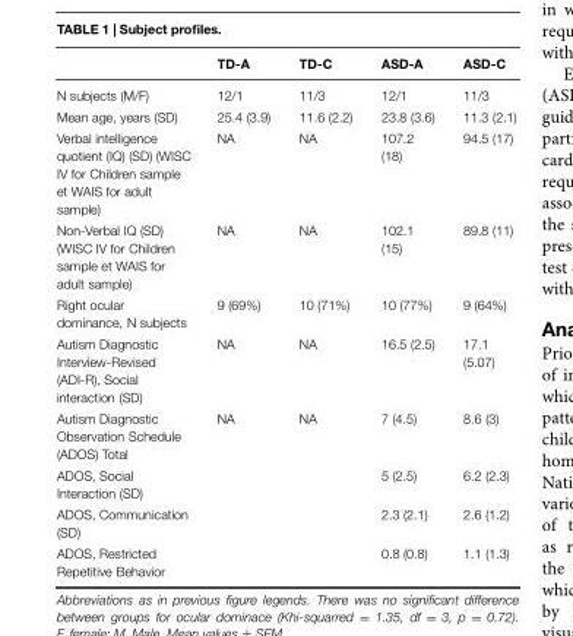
<table><thead><tr><td></td><td>TD-A</td><td>TD-C</td><td>ASD-A</td><td>ASD-C</td></tr></thead><tbody><tr><td>N subjects (M/F)</td><td>12/1</td><td>11/3</td><td>12/1</td><td>11/3</td></tr><tr><td>Mean age, years (SD)</td><td>25.4 (3.9)</td><td>11.6 (2.2)</td><td>23.8 (3.6)</td><td>11.3 (2.1)</td></tr><tr><td>Verbal intelligence quotient (IQ) (SD) (WISC IV for Children sample et WAIS for adult sample)</td><td>NA</td><td>NA</td><td>107.2 (18)</td><td>94.5 (17)</td></tr><tr><td>Non-Verbal IQ (SD) (WISC IV for Children sample et WAIS for adult sample)</td><td>NA</td><td>NA</td><td>102.1 (15)</td><td>89.8 (11)</td></tr><tr><td>Right ocular dominance, N subjects</td><td>9 (69%)</td><td>10 (71%)</td><td>10 (77%)</td><td>9 (64%)</td></tr><tr><td>Autism Diagnostic Interview-Revised (ADI-R), Social interaction (SD)</td><td>NA</td><td>NA</td><td>16.5 (2.5)</td><td>17.1 (5.07)</td></tr><tr><td>Autism Diagnostic Observation Schedule (ADOS) Total</td><td>NA</td><td>NA</td><td>7 (4.5)</td><td>8.6 (3)</td></tr><tr><td>ADOS, Social Interaction (SD)</td><td></td><td></td><td>5 (2.5)</td><td>6.2 (2.3)</td></tr><tr><td>ADOS, Communication (SD)</td><td></td><td></td><td>2.3 (2.1)</td><td>2.6 (1.2)</td></tr><tr><td>ADOS, Restricted Repetitive Behavior</td><td></td><td></td><td>0.8 (0.8)</td><td>1.1 (1.3)</td></tr></tbody></table>